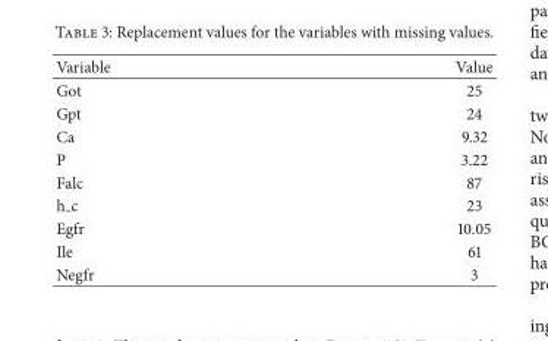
<table><thead><tr><td>Variable</td><td>Value</td></tr></thead><tbody><tr><td>Got</td><td>25</td></tr><tr><td>Gpt</td><td>24</td></tr><tr><td>Ca</td><td>9.32</td></tr><tr><td>P</td><td>3.22</td></tr><tr><td>Falc</td><td>87</td></tr><tr><td>h c</td><td>23</td></tr><tr><td>Egfr</td><td>10.05</td></tr><tr><td>Ile</td><td>61</td></tr><tr><td>Negfr</td><td>3</td></tr></tbody></table>